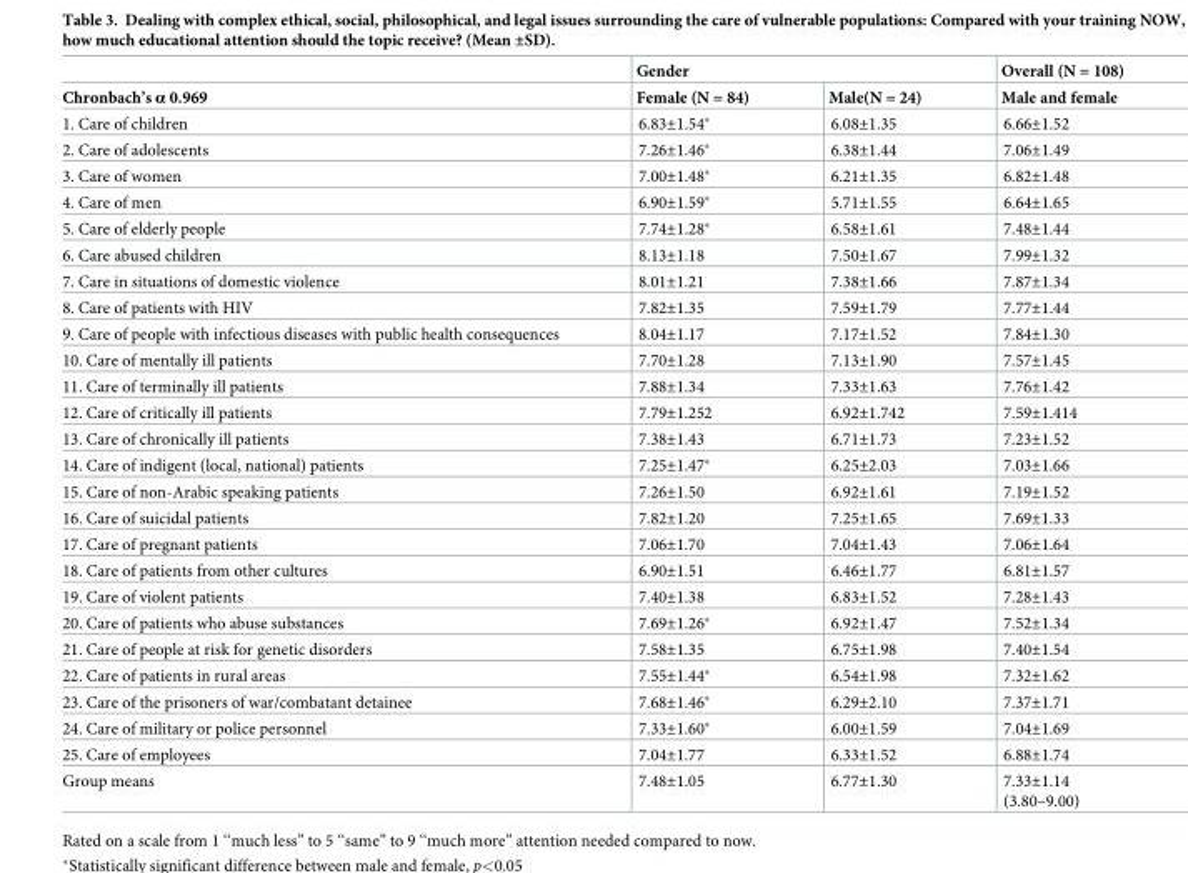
<table><thead><tr><td rowspan="2">Chronbach’s α 0.969</td><td colspan="2">Gender</td><td rowspan="2">Overall (N = 108) Male and female</td></tr><tr><td>Female (N = 84)</td><td>Male(N = 24)</td></tr></thead><tbody><tr><td>1. Care of children</td><td>6.83±1.54*</td><td>6.08±1.35</td><td>6.66±1.52</td></tr><tr><td>2. Care of adolescents</td><td>7.26±1.46*</td><td>6.38±1.44</td><td>7.06±1.49</td></tr><tr><td>3. Care of women</td><td>7.00±1.48*</td><td>6.21±1.35</td><td>6.82±1.48</td></tr><tr><td>4. Care of men</td><td>6.90±1.59*</td><td>5.71±1.55</td><td>6.64±1.65</td></tr><tr><td>5. Care of elderly people</td><td>7.74±1.28*</td><td>6.58±1.61</td><td>7.48±1.44</td></tr><tr><td>6. Care abused children</td><td>8.13±1.18</td><td>7.50±1.67</td><td>7.99±1.32</td></tr><tr><td>7. Care in situations of domestic violence</td><td>8.01±1.21</td><td>7.38±1.66</td><td>7.87±1.34</td></tr><tr><td>8. Care of patients with HIV</td><td>7.82±1.35</td><td>7.59±1.79</td><td>7.77±1.44</td></tr><tr><td>9. Care of people with infectious diseases with public health consequences</td><td>8.04±1.17</td><td>7.17±1.52</td><td>7.84±1.30</td></tr><tr><td>10. Care of mentally ill patients</td><td>7.70±1.28</td><td>7.13±1.90</td><td>7.57±1.45</td></tr><tr><td>11. Care of terminally ill patients</td><td>7.88±1.34</td><td>7.33±1.63</td><td>7.76±1.42</td></tr><tr><td>12. Care of critically ill patients</td><td>7.79±1.252</td><td>6.92±1.742</td><td>7.59±1.414</td></tr><tr><td>13. Care of chronically ill patients</td><td>7.38±1.43</td><td>6.71±1.73</td><td>7.23±1.52</td></tr><tr><td>14. Care of indigent (local, national) patients</td><td>7.25±1.47*</td><td>6.25±2.03</td><td>7.03±1.66</td></tr><tr><td>15. Care of non-Arabic speaking patients</td><td>7.26±1.50</td><td>6.92±1.61</td><td>7.19±1.52</td></tr><tr><td>16. Care of suicidal patients</td><td>7.82±1.20</td><td>7.25±1.65</td><td>7.69±1.33</td></tr><tr><td>17. Care of pregnant patients</td><td>7.06±1.70</td><td>7.04±1.43</td><td>7.06±1.64</td></tr><tr><td>18. Care of patients from other cultures</td><td>6.90±1.51</td><td>6.46±1.77</td><td>6.81±1.57</td></tr><tr><td>19. Care of violent patients</td><td>7.40±1.38</td><td>6.83±1.52</td><td>7.28±1.43</td></tr><tr><td>20. Care of patients who abuse substances</td><td>7.69±1.26*</td><td>6.92±1.47</td><td>7.52±1.34</td></tr><tr><td>21. Care of people at risk for genetic disorders</td><td>7.58±1.35</td><td>6.75±1.98</td><td>7.40±1.54</td></tr><tr><td>22. Care of patients in rural areas</td><td>7.55±1.44*</td><td>6.54±1.98</td><td>7.32±1.62</td></tr><tr><td>23. Care of the prisoners of war/combatant detainee</td><td>7.68±1.46*</td><td>6.29±2.10</td><td>7.37±1.71</td></tr><tr><td>24. Care of military or police personnel</td><td>7.33±1.60*</td><td>6.00±1.59</td><td>7.04±1.69</td></tr><tr><td>25. Care of employees</td><td>7.04±1.77</td><td>6.33±1.52</td><td>6.88±1.74</td></tr><tr><td>Group means</td><td>7.48±1.05</td><td>6.77±1.30</td><td>7.33±1.14 (3.80–9.00)</td></tr></tbody></table>